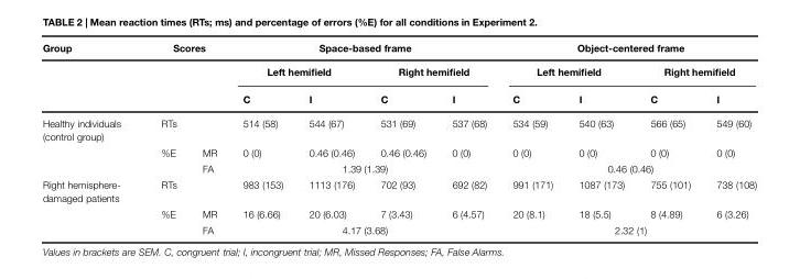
<table><thead><tr><td rowspan="3">Group</td><td colspan="2">Scores</td><td colspan="4">Space-based frame</td><td colspan="4">Object-centered frame</td></tr><tr><td rowspan="2"></td><td rowspan="2"></td><td colspan="2">Left hemifield</td><td colspan="2">Right hemifield</td><td colspan="2">Left hemifield</td><td colspan="2">Right hemifield</td></tr><tr><td>C</td><td>I</td><td>C</td><td>I</td><td>C</td><td>I</td><td>C</td><td>I</td></tr></thead><tbody><tr><td rowspan="3">Healthy individuals (control group)</td><td>RTs</td><td></td><td>514 (58)</td><td>544 (67)</td><td>531 (69)</td><td>537 (68)</td><td>534 (59)</td><td>540 (63)</td><td>566 (65)</td><td>549 (60)</td></tr><tr><td>%E</td><td>MR</td><td>0 (0)</td><td>0.46 (0.46)</td><td>0.46 (0.46)</td><td>0 (0)</td><td>0 (0)</td><td>0 (0)</td><td>0 (0)</td><td>0 (0)</td></tr><tr><td></td><td>FA</td><td colspan="4">1.39 (1.39)</td><td colspan="4">0.46 (0.46)</td></tr><tr><td rowspan="3">Right hemisphere- damaged patients</td><td>RTs</td><td></td><td>983 (153)</td><td>1113 (176)</td><td>702 (93)</td><td>692 (82)</td><td>991 (171)</td><td>1087 (173)</td><td>755 (101)</td><td>738 (108)</td></tr><tr><td>%E</td><td>MR</td><td>16 (6.66)</td><td>20 (6.03)</td><td>7 (3.43)</td><td>6 (4.57)</td><td>20 (8.1)</td><td>18 (5.5)</td><td>8 (4.89)</td><td>6 (3.26)</td></tr><tr><td></td><td>FA</td><td colspan="4">4.17 (3.68)</td><td colspan="4">2.32 (1)</td></tr></tbody></table>